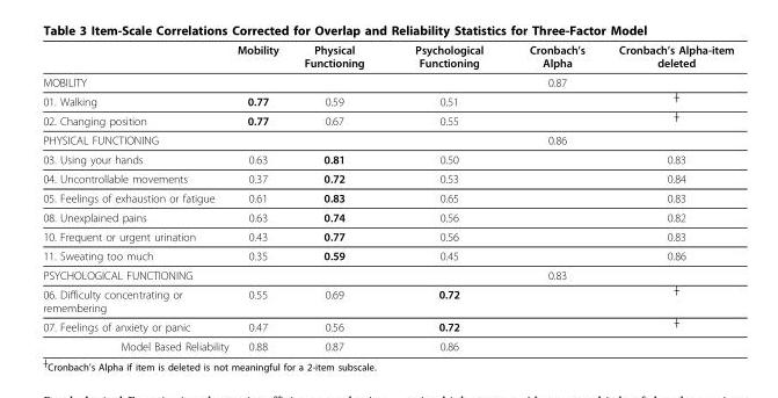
<table><thead><tr><td></td><td>Mobility</td><td>Physical Functioning</td><td>Psychological Functioning</td><td>Cronbach’s Alpha</td><td>Cronbach’s Alpha-item deleted</td></tr></thead><tbody><tr><td>MOBILITY</td><td></td><td></td><td></td><td>0.87</td><td></td></tr><tr><td>01. Walking</td><td>0.77</td><td>0.59</td><td>0.51</td><td></td><td><sup>┼</sup></td></tr><tr><td>02. Changing position</td><td>0.77</td><td>0.67</td><td>0.55</td><td></td><td><sup>┼</sup></td></tr><tr><td>PHYSICAL FUNCTIONING</td><td></td><td></td><td></td><td>0.86</td><td></td></tr><tr><td>03. Using your hands</td><td>0.63</td><td>0.81</td><td>0.50</td><td></td><td>0.83</td></tr><tr><td>04. Uncontrollable movements</td><td>0.37</td><td>0.72</td><td>0.53</td><td></td><td>0.84</td></tr><tr><td>05. Feelings of exhaustion or fatigue</td><td>0.61</td><td>0.83</td><td>0.65</td><td></td><td>0.83</td></tr><tr><td>08. Unexplained pains</td><td>0.63</td><td>0.74</td><td>0.56</td><td></td><td>0.82</td></tr><tr><td>10. Frequent or urgent urination</td><td>0.43</td><td>0.77</td><td>0.56</td><td></td><td>0.83</td></tr><tr><td>11. Sweating too much</td><td>0.35</td><td>0.59</td><td>0.45</td><td></td><td>0.86</td></tr><tr><td>PSYCHOLOGICAL FUNCTIONING</td><td></td><td></td><td></td><td>0.83</td><td></td></tr><tr><td>06. Difficulty concentrating or remembering</td><td>0.55</td><td>0.69</td><td>0.72</td><td></td><td><sup>┼</sup></td></tr><tr><td>07. Feelings of anxiety or panic</td><td>0.47</td><td>0.56</td><td>0.72</td><td></td><td><sup>┼</sup></td></tr><tr><td>Model Based Reliability</td><td>0.88</td><td>0.87</td><td>0.86</td><td></td><td></td></tr></tbody></table>